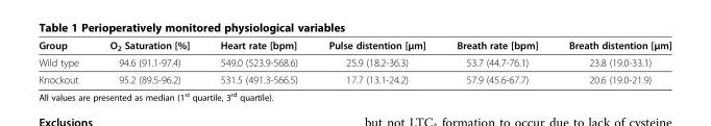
<table><thead><tr><td>Group</td><td>O<sub>2</sub> Saturation [%]</td><td>Heart rate [bpm]</td><td>Pulse distention [μm]</td><td>Breath rate [bpm]</td><td>Breath distention [μm]</td></tr></thead><tbody><tr><td>Wild type</td><td>94.6 (91.1-97.4)</td><td>549.0 (523.9-568.6)</td><td>25.9 (18.2-36.3)</td><td>53.7 (44.7-76.1)</td><td>23.8 (19.0-33.1)</td></tr><tr><td>Knockout</td><td>95.2 (89.5-96.2)</td><td>531.5 (491.3-566.5)</td><td>17.7 (13.1-24.2)</td><td>57.9 (45.6-67.7)</td><td>20.6 (19.0-21.9)</td></tr></tbody></table>